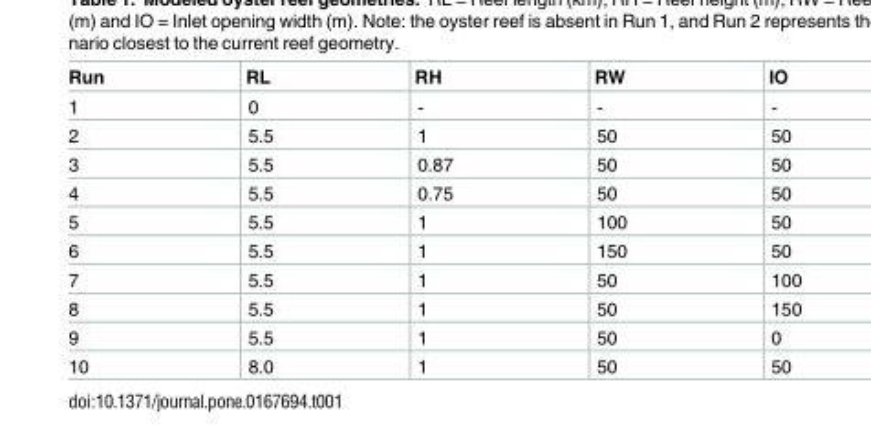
<table><thead><tr><td>Run</td><td>RL</td><td>RH</td><td>RW</td><td>IO</td></tr></thead><tbody><tr><td>1</td><td>0</td><td>-</td><td>-</td><td>-</td></tr><tr><td>2</td><td>5.5</td><td>1</td><td>50</td><td>50</td></tr><tr><td>3</td><td>5.5</td><td>0.87</td><td>50</td><td>50</td></tr><tr><td>4</td><td>5.5</td><td>0.75</td><td>50</td><td>50</td></tr><tr><td>5</td><td>5.5</td><td>1</td><td>100</td><td>50</td></tr><tr><td>6</td><td>5.5</td><td>1</td><td>150</td><td>50</td></tr><tr><td>7</td><td>5.5</td><td>1</td><td>50</td><td>100</td></tr><tr><td>8</td><td>5.5</td><td>1</td><td>50</td><td>150</td></tr><tr><td>9</td><td>5.5</td><td>1</td><td>50</td><td>0</td></tr><tr><td>10</td><td>8.0</td><td>1</td><td>50</td><td>50</td></tr></tbody></table>